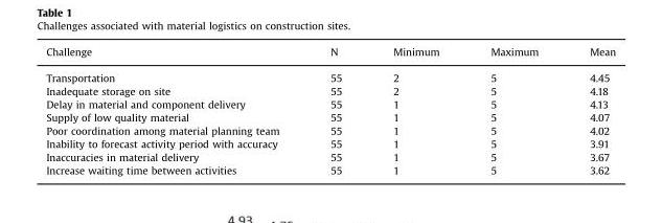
<table><thead><tr><td>Challenge</td><td>N</td><td>Minimum</td><td>Maximum</td><td>Mean</td></tr></thead><tbody><tr><td>Transportation</td><td>55</td><td>2</td><td>5</td><td>4.45</td></tr><tr><td>Inadequate storage on site</td><td>55</td><td>2</td><td>5</td><td>4.18</td></tr><tr><td>Delay in material and component delivery</td><td>55</td><td>1</td><td>5</td><td>4.13</td></tr><tr><td>Supply of low quality material</td><td>55</td><td>1</td><td>5</td><td>4.07</td></tr><tr><td>Poor coordination among material planning team</td><td>55</td><td>1</td><td>5</td><td>4.02</td></tr><tr><td>Inability to forecast activity period with accuracy</td><td>55</td><td>1</td><td>5</td><td>3.91</td></tr><tr><td>Inaccuracies in material delivery</td><td>55</td><td>1</td><td>5</td><td>3.67</td></tr><tr><td>Increase waiting time between activities</td><td>55</td><td>1</td><td>5</td><td>3.62</td></tr></tbody></table>